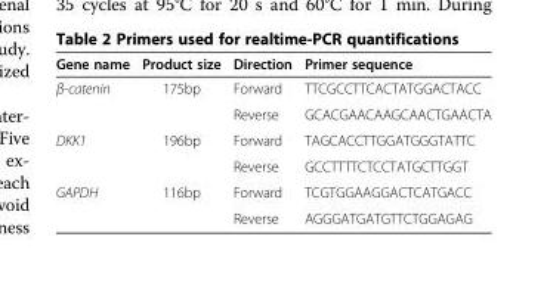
<table><thead><tr><td>Gene name</td><td>Product size</td><td>Direction</td><td>Primer sequence</td></tr></thead><tbody><tr><td rowspan="2">β-catenin</td><td>175bp</td><td>Forward</td><td>TTCGCCTTCACTATGGACTACC</td></tr><tr><td></td><td>Reverse</td><td>GCACGAACAAGCAACTGAACTA</td></tr><tr><td rowspan="2">DKK1</td><td>196bp</td><td>Forward</td><td>TAGCACCTTGGATGGGTATTC</td></tr><tr><td></td><td>Reverse</td><td>GCCTTTTCTCCTATGCTTGGT</td></tr><tr><td rowspan="2">GAPDH</td><td>116bp</td><td>Forward</td><td>TCGTGGAAGGACTCATGACC</td></tr><tr><td></td><td>Reverse</td><td>AGGGATGATGTTCTGGAGAG</td></tr></tbody></table>